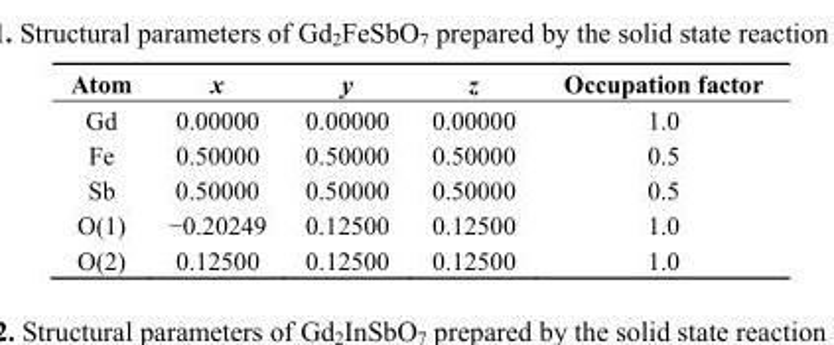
<table><thead><tr><td>Atom</td><td>x</td><td>y</td><td>z</td><td>Occupation factor</td></tr></thead><tbody><tr><td>Gd</td><td>0.00000</td><td>0.00000</td><td>0.00000</td><td>1.0</td></tr><tr><td>Fe</td><td>0.50000</td><td>0.50000</td><td>0.50000</td><td>0.5</td></tr><tr><td>Sb</td><td>0.50000</td><td>0.50000</td><td>0.50000</td><td>0.5</td></tr><tr><td>O(1)</td><td>−0.20249</td><td>0.12500</td><td>0.12500</td><td>1.0</td></tr><tr><td>O(2)</td><td>0.12500</td><td>0.12500</td><td>0.12500</td><td>1.0</td></tr></tbody></table>